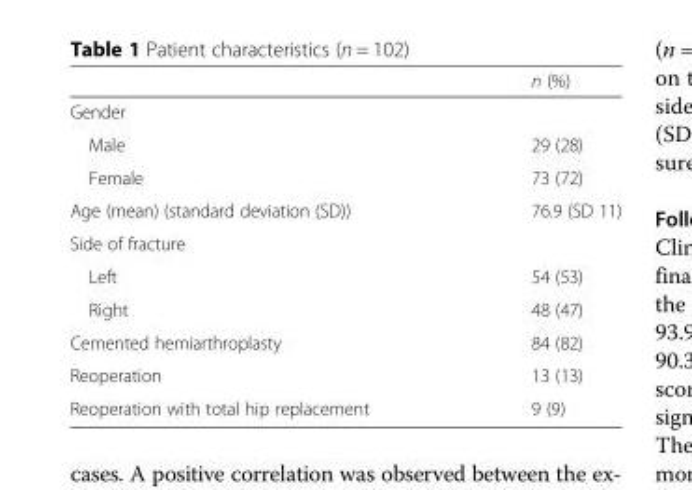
<table><thead><tr><td></td><td>n (%)</td></tr></thead><tbody><tr><td colspan="2">Gender</td></tr><tr><td>Male</td><td>29 (28)</td></tr><tr><td>Female</td><td>73 (72)</td></tr><tr><td>Age (mean) (standard deviation (SD))</td><td>76.9 (SD 11)</td></tr><tr><td colspan="2">Side of fracture</td></tr><tr><td>Left</td><td>54 (53)</td></tr><tr><td>Right</td><td>48 (47)</td></tr><tr><td>Cemented hemiarthroplasty</td><td>84 (82)</td></tr><tr><td>Reoperation</td><td>13 (13)</td></tr><tr><td>Reoperation with total hip replacement</td><td>9 (9)</td></tr></tbody></table>